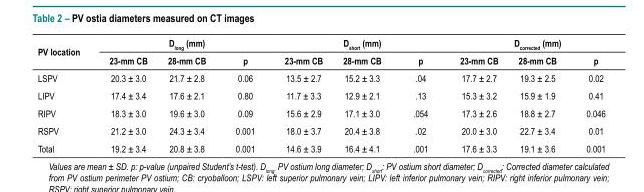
<table><thead><tr><td rowspan="2">PV location</td><td colspan="3">D<sub>long</sub> (mm)</td><td colspan="3">D<sub>short</sub> (mm)</td><td colspan="3">D<sub>corrected</sub> (mm)</td></tr><tr><td>23-mm CB</td><td>28-mm CB</td><td>p</td><td>23-mm CB</td><td>28-mm CB</td><td>p</td><td>23-mm CB</td><td>28-mm CB</td><td>p</td></tr></thead><tbody><tr><td>LSPV</td><td>20.3 ± 3.0</td><td>21.7 ± 2.8</td><td>0.06</td><td>13.5 ± 2.7</td><td>15.2 ± 3.3</td><td>.04</td><td>17.7 ± 2.7</td><td>19.3 ± 2.5</td><td>0.02</td></tr><tr><td>LIPV</td><td>17.4 ± 3.4</td><td>17.6 ± 2.1</td><td>0.80</td><td>11.7 ± 3.3</td><td>12.9 ± 2.1</td><td>.13</td><td>15.3 ± 3.2</td><td>15.9 ± 1.9</td><td>0.41</td></tr><tr><td>RIPV</td><td>18.3 ± 3.0</td><td>19.6 ± 3.0</td><td>0.09</td><td>15.6 ± 2.9</td><td>17.1 ± 3.0</td><td>.054</td><td>17.3 ± 2.6</td><td>18.8 ± 2.7</td><td>0.046</td></tr><tr><td>RSPV</td><td>21.2 ± 3.0</td><td>24.3 ± 3.4</td><td>0.001</td><td>18.0 ± 3.7</td><td>20.4 ± 3.8</td><td>.02</td><td>20.0 ± 3.0</td><td>22.7 ± 3.4</td><td>0.01</td></tr><tr><td>Total</td><td>19.2 ± 3.4</td><td>20.8 ± 3.8</td><td>0.001</td><td>14.6 ± 3.9</td><td>16.4 ± 4.1</td><td>.001</td><td>17.6 ± 3.3</td><td>19.1 ± 3.6</td><td>0.001</td></tr></tbody></table>